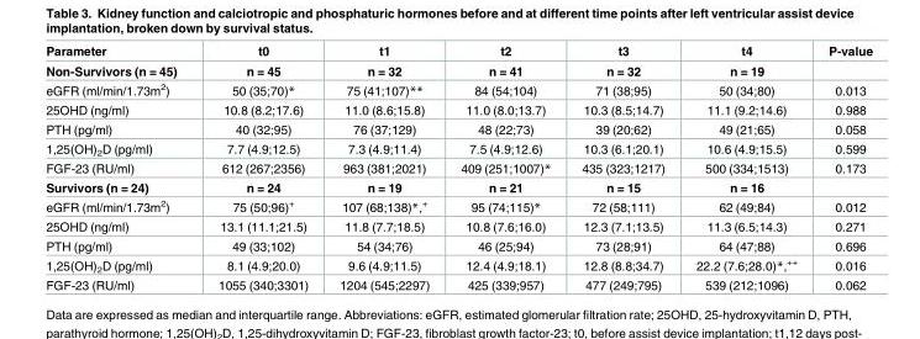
<table><thead><tr><td>Parameter</td><td>t0</td><td>t1</td><td>t2</td><td>t3</td><td>t4</td><td>P-value</td></tr></thead><tbody><tr><td>Non-Survivors (n = 45)</td><td>n = 45</td><td>n = 32</td><td>n = 41</td><td>n = 32</td><td>n = 19</td><td></td></tr><tr><td>eGFR (ml/min/1.73m<sup>2</sup>)</td><td>50 (35;70)*</td><td>75 (41;107)**</td><td>84 (54;104)</td><td>71 (38;95)</td><td>50 (34;80)</td><td>0.013</td></tr><tr><td>25OHD (ng/ml)</td><td>10.8 (8.2;17.6)</td><td>11.0 (8.6;15.8)</td><td>11.0 (8.0;13.7)</td><td>10.3 (8.5;14.7)</td><td>11.1 (9.2;14.6)</td><td>0.988</td></tr><tr><td>PTH (pg/ml)</td><td>40 (32;95)</td><td>76 (37;129)</td><td>48 (22;73)</td><td>39 (20;62)</td><td>49 (21;65)</td><td>0.058</td></tr><tr><td>1,25(OH)<sub>2</sub>D (pg/ml)</td><td>7.7 (4.9;12.5)</td><td>7.3 (4.9;11.4)</td><td>7.5 (4.9;12.6)</td><td>10.3 (6.1;20.1)</td><td>10.6 (4.9;15.5)</td><td>0.599</td></tr><tr><td>FGF-23 (RU/ml)</td><td>612 (267;2356)</td><td>963 (381;2021)</td><td>409 (251;1007)*</td><td>435 (323;1217)</td><td>500 (334;1513)</td><td>0.173</td></tr><tr><td>Survivors (n = 24)</td><td>n = 24</td><td>n = 19</td><td>n = 21</td><td>n = 15</td><td>n = 16</td><td></td></tr><tr><td>eGFR (ml/min/1.73m<sup>2</sup>)</td><td>75 (50;96)<sup>+</sup></td><td>107 (68;138)*,<sup>+</sup></td><td>95 (74;115)*</td><td>72 (58;111)</td><td>62 (49;84)</td><td>0.012</td></tr><tr><td>25OHD (ng/ml)</td><td>13.1 (11.1;21.5)</td><td>11.8 (7.7;18.5)</td><td>10.8 (7.6;16.0)</td><td>12.3 (7.1;13.5)</td><td>11.3 (6.5;14.3)</td><td>0.271</td></tr><tr><td>PTH (pg/ml)</td><td>49 (33;102)</td><td>54 (34;76)</td><td>46 (25;94)</td><td>73 (28;91)</td><td>64 (47;88)</td><td>0.696</td></tr><tr><td>1,25(OH)<sub>2</sub>D (pg/ml)</td><td>8.1 (4.9;20.0)</td><td>9.6 (4.9;11.5)</td><td>12.4 (4.9;18.1)</td><td>12.8 (8.8;34.7)</td><td>22.2 (7.6;28.0)*,<sup>++</sup></td><td>0.016</td></tr><tr><td>FGF-23 (RU/ml)</td><td>1055 (340;3301)</td><td>1204 (545;2297)</td><td>425 (339;957)</td><td>477 (249;795)</td><td>539 (212;1096)</td><td>0.062</td></tr></tbody></table>